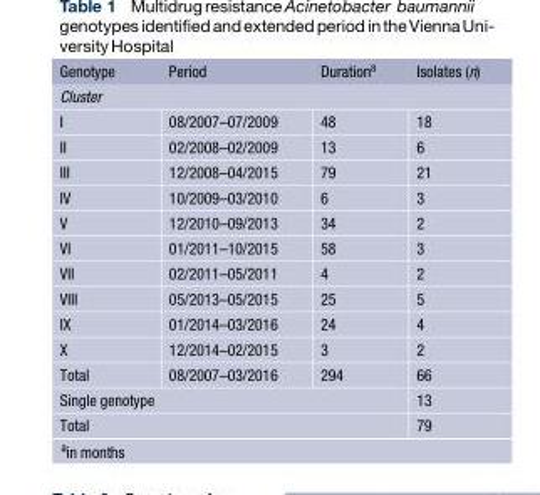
<table><thead><tr><td>Genotype</td><td>Period</td><td>Duration<sup>a</sup></td><td>Isolates (n)</td></tr></thead><tbody><tr><td colspan="4">Cluster</td></tr><tr><td>I</td><td>08/2007–07/2009</td><td>48</td><td>18</td></tr><tr><td>II</td><td>02/2008–02/2009</td><td>13</td><td>6</td></tr><tr><td>III</td><td>12/2008–04/2015</td><td>79</td><td>21</td></tr><tr><td>IV</td><td>10/2009–03/2010</td><td>6</td><td>3</td></tr><tr><td>V</td><td>12/2010–09/2013</td><td>34</td><td>2</td></tr><tr><td>VI</td><td>01/2011–10/2015</td><td>58</td><td>3</td></tr><tr><td>VII</td><td>02/2011–05/2011</td><td>4</td><td>2</td></tr><tr><td>VIII</td><td>05/2013–05/2015</td><td>25</td><td>5</td></tr><tr><td>IX</td><td>01/2014–03/2016</td><td>24</td><td>4</td></tr><tr><td>X</td><td>12/2014–02/2015</td><td>3</td><td>2</td></tr><tr><td>Total</td><td>08/2007–03/2016</td><td>294</td><td>66</td></tr><tr><td colspan="3">Single genotype</td><td>13</td></tr><tr><td colspan="3">Total</td><td>79</td></tr></tbody></table>